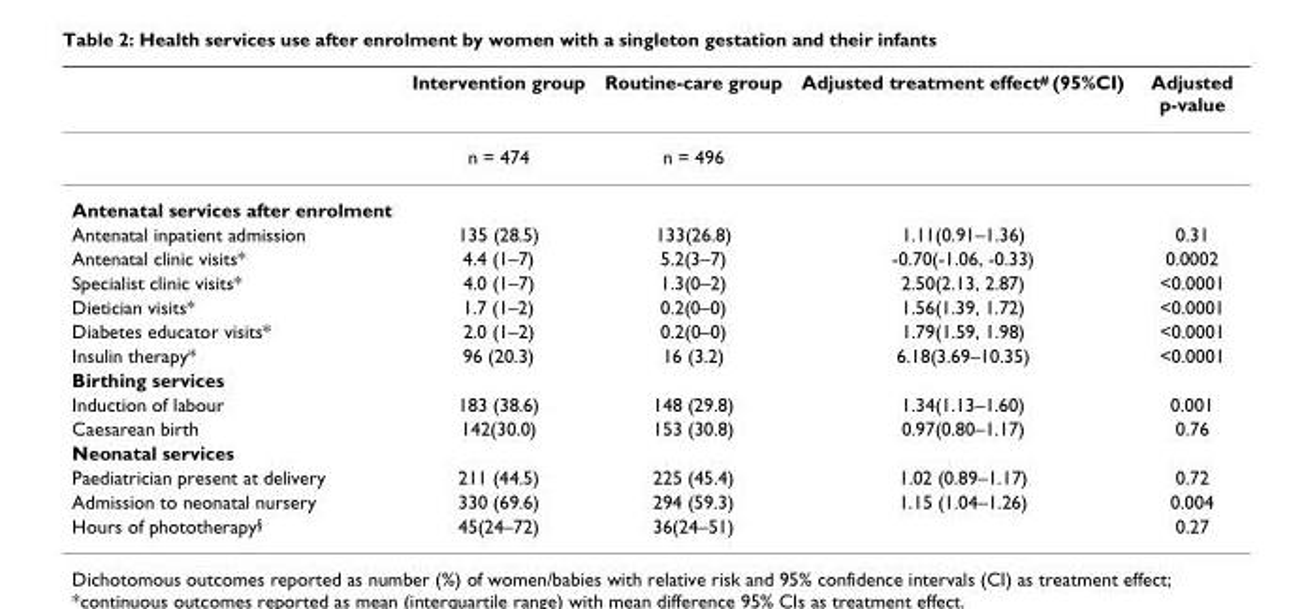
<table><thead><tr><td></td><td>Intervention group</td><td>Routine-care group</td><td>Adjusted treatment effect<sup>#</sup> (95%CI)</td><td>Adjusted p-value</td></tr></thead><tbody><tr><td></td><td>n = 474</td><td>n = 496</td><td></td><td></td></tr><tr><td colspan="5">Antenatal services after enrolment</td></tr><tr><td>Antenatal inpatient admission</td><td>135 (28.5)</td><td>133(26.8)</td><td>1.11(0.91–1.36)</td><td>0.31</td></tr><tr><td>Antenatal clinic visits*</td><td>4.4 (1–7)</td><td>5.2(3–7)</td><td>-0.70(-1.06, -0.33)</td><td>0.0002</td></tr><tr><td>Specialist clinic visits*</td><td>4.0 (1–7)</td><td>1.3(0–2)</td><td>2.50(2.13, 2.87)</td><td>&lt;0.0001</td></tr><tr><td>Dietician visits*</td><td>1.7 (1–2)</td><td>0.2(0–0)</td><td>1.56(1.39, 1.72)</td><td>&lt;0.0001</td></tr><tr><td>Diabetes educator visits*</td><td>2.0 (1–2)</td><td>0.2(0–0)</td><td>1.79(1.59, 1.98)</td><td>&lt;0.0001</td></tr><tr><td>Insulin therapy*</td><td>96 (20.3)</td><td>16 (3.2)</td><td>6.18(3.69–10.35)</td><td>&lt;0.0001</td></tr><tr><td colspan="5">Birthing services</td></tr><tr><td>Induction of labour</td><td>183 (38.6)</td><td>148 (29.8)</td><td>1.34(1.13–1.60)</td><td>0.001</td></tr><tr><td>Caesarean birth</td><td>142(30.0)</td><td>153 (30.8)</td><td>0.97(0.80–1.17)</td><td>0.76</td></tr><tr><td colspan="5">Neonatal services</td></tr><tr><td>Paediatrician present at delivery</td><td>211 (44.5)</td><td>225 (45.4)</td><td>1.02 (0.89–1.17)</td><td>0.72</td></tr><tr><td>Admission to neonatal nursery</td><td>330 (69.6)</td><td>294 (59.3)</td><td>1.15 (1.04–1.26)</td><td>0.004</td></tr><tr><td>Hours of phototherapy<sup>§</sup></td><td>45(24–72)</td><td>36(24–51)</td><td></td><td>0.27</td></tr></tbody></table>